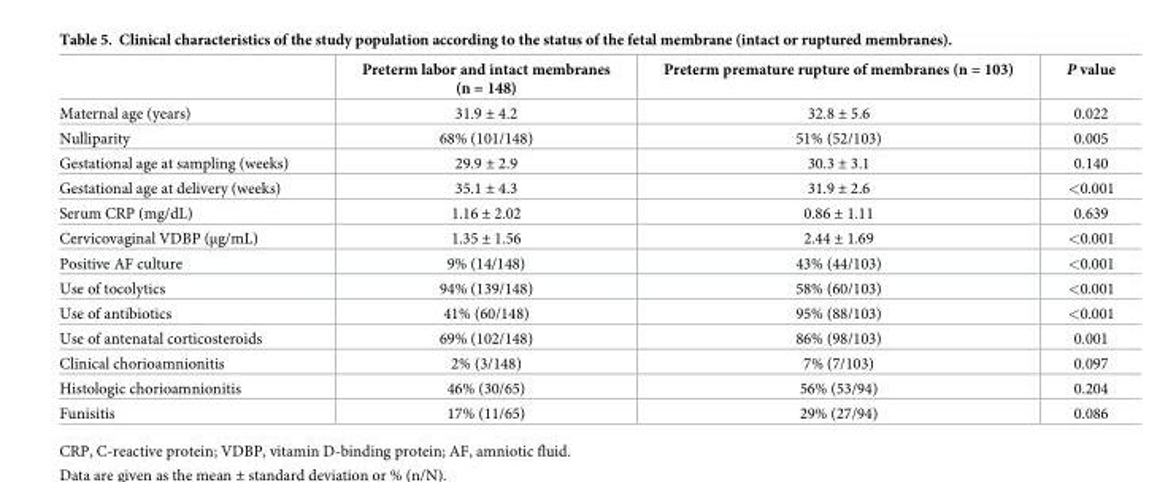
<table><thead><tr><td></td><td>Preterm labor and intact membranes (n = 148)</td><td>Preterm premature rupture of membranes (n = 103)</td><td>P value</td></tr></thead><tbody><tr><td>Maternal age (years)</td><td>31.9 ± 4.2</td><td>32.8 ± 5.6</td><td>0.022</td></tr><tr><td>Nulliparity</td><td>68% (101/148)</td><td>51% (52/103)</td><td>0.005</td></tr><tr><td>Gestational age at sampling (weeks)</td><td>29.9 ± 2.9</td><td>30.3 ± 3.1</td><td>0.140</td></tr><tr><td>Gestational age at delivery (weeks)</td><td>35.1 ± 4.3</td><td>31.9 ± 2.6</td><td>&lt;0.001</td></tr><tr><td>Serum CRP (mg/dL)</td><td>1.16 ± 2.02</td><td>0.86 ± 1.11</td><td>0.639</td></tr><tr><td>Cervicovaginal VDBP (μg/mL)</td><td>1.35 ± 1.56</td><td>2.44 ± 1.69</td><td>&lt;0.001</td></tr><tr><td>Positive AF culture</td><td>9% (14/148)</td><td>43% (44/103)</td><td>&lt;0.001</td></tr><tr><td>Use of tocolytics</td><td>94% (139/148)</td><td>58% (60/103)</td><td>&lt;0.001</td></tr><tr><td>Use of antibiotics</td><td>41% (60/148)</td><td>95% (88/103)</td><td>&lt;0.001</td></tr><tr><td>Use of antenatal corticosteroids</td><td>69% (102/148)</td><td>86% (98/103)</td><td>0.001</td></tr><tr><td>Clinical chorioamnionitis</td><td>2% (3/148)</td><td>7% (7/103)</td><td>0.097</td></tr><tr><td>Histologic chorioamnionitis</td><td>46% (30/65)</td><td>56% (53/94)</td><td>0.204</td></tr><tr><td>Funisitis</td><td>17% (11/65)</td><td>29% (27/94)</td><td>0.086</td></tr></tbody></table>